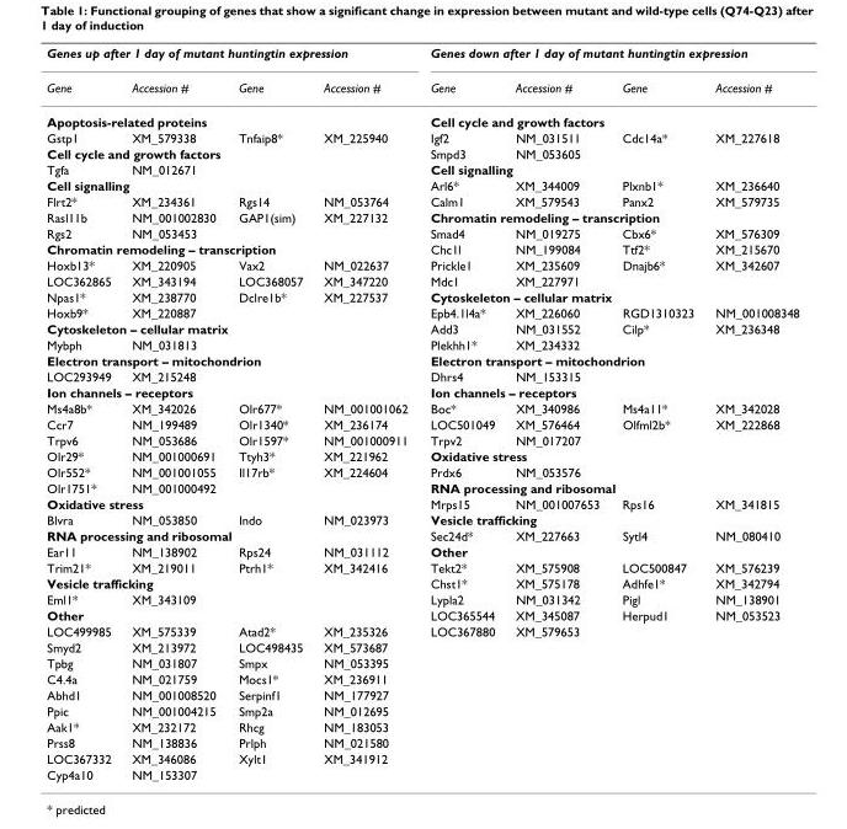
<table><thead><tr><td colspan="4">Genes up after 1 day of mutant huntingtin expression</td><td colspan="4">Genes down after 1 day of mutant huntingtin expression</td></tr><tr><td>Gene</td><td>Accession #</td><td>Gene</td><td>Accession #</td><td>Gene</td><td>Accession #</td><td>Gene</td><td>Accession #</td></tr></thead><tbody><tr><td colspan="4">Apoptosis-related proteins</td><td colspan="4">Cell cycle and growth factors</td></tr><tr><td>Gstp1</td><td>XM_579338</td><td>Tnfaip8*</td><td>XM_225940</td><td>Igf2</td><td>NM_031511</td><td>Cdc14a*</td><td>XM_227618</td></tr><tr><td colspan="4">Cell cycle and growth factors</td><td>Smpd3</td><td>NM_053605</td><td></td><td></td></tr><tr><td>Tgfa</td><td>NM_012671</td><td></td><td></td><td colspan="4">Cell signalling</td></tr><tr><td colspan="4">Cell signalling</td><td>Arl6*</td><td>XM_344009</td><td>Plxnb1*</td><td>XM_236640</td></tr><tr><td>Flrt2*</td><td>XM_234361</td><td>Rgs14</td><td>NM_053764</td><td>Calm1</td><td>XM_579543</td><td>Panx2</td><td>XM_579735</td></tr><tr><td>Rasl11b</td><td>NM_001002830</td><td>GAP1(sim)</td><td>XM_227132</td><td colspan="4">Chromatin remodeling – transcription</td></tr><tr><td>Rgs2</td><td>NM_053453</td><td></td><td></td><td>Smad4</td><td>NM_019275</td><td>Cbx6*</td><td>XM_576309</td></tr><tr><td colspan="4">Chromatin remodeling – transcription</td><td>Chc1l</td><td>NM_199084</td><td>Ttf2*</td><td>XM_215670</td></tr><tr><td>Hoxb13*</td><td>XM_220905</td><td>Vax2</td><td>NM_022637</td><td>Prickle1</td><td>XM_235609</td><td>Dnajb6*</td><td>XM_342607</td></tr><tr><td>LOC362865</td><td>XM_343194</td><td>LOC368057</td><td>XM_347220</td><td>Mdc1</td><td>XM_227971</td><td></td><td></td></tr><tr><td>Npas1*</td><td>XM_238770</td><td>Dclre1b*</td><td>XM_227537</td><td colspan="4">Cytoskeleton – cellular matrix</td></tr><tr><td>Hoxb9*</td><td>XM_220887</td><td></td><td></td><td>Epb4.1l4a*</td><td>XM_226060</td><td>RGD1310323</td><td>NM_001008348</td></tr><tr><td colspan="4">Cytoskeleton – cellular matrix</td><td>Add3</td><td>NM_031552</td><td>Cilp*</td><td>XM_236348</td></tr><tr><td>Mybph</td><td>NM_031813</td><td></td><td></td><td>Plekhh1*</td><td>XM_234332</td><td></td><td></td></tr><tr><td colspan="4">Electron transport – mitochondrion</td><td colspan="4">Electron transport – mitochondrion</td></tr><tr><td>LOC293949</td><td>XM_215248</td><td></td><td></td><td>Dhrs4</td><td>NM_153315</td><td></td><td></td></tr><tr><td colspan="4">Ion channels – receptors</td><td colspan="4">Ion channels – receptors</td></tr><tr><td>Ms4a8b*</td><td>XM_342026</td><td>Olr677*</td><td>NM_001001062</td><td>Boc*</td><td>XM_340986</td><td>Ms4a11*</td><td>XM_342028</td></tr><tr><td>Ccr7</td><td>NM_199489</td><td>Olr1340*</td><td>XM_236174</td><td>LOC501049</td><td>XM_576464</td><td>Olfml2b*</td><td>XM_222868</td></tr><tr><td>Trpv6</td><td>NM_053686</td><td>Olr1597*</td><td>NM_001000911</td><td>Trpv2</td><td>NM_017207</td><td></td><td></td></tr><tr><td>Olr29*</td><td>NM_001000691</td><td>Ttyh3*</td><td>XM_221962</td><td colspan="4">Oxidative stress</td></tr><tr><td>Olr552*</td><td>NM_001001055</td><td>Il17rb*</td><td>XM_224604</td><td>Prdx6</td><td>NM_053576</td><td></td><td></td></tr><tr><td>Olr1751*</td><td>NM_001000492</td><td></td><td></td><td colspan="4">RNA processing and ribosomal</td></tr><tr><td colspan="4">Oxidative stress</td><td>Mrps15</td><td>NM_001007653</td><td>Rps16</td><td>XM_341815</td></tr><tr><td>Blvra</td><td>NM_053850</td><td>Indo</td><td>NM_023973</td><td colspan="4">Vesicle trafficking</td></tr><tr><td colspan="4">RNA processing and ribosomal</td><td>Sec24d*</td><td>XM_227663</td><td>Sytl4</td><td>NM_080410</td></tr><tr><td>Ear11</td><td>NM_138902</td><td>Rps24</td><td>NM_031112</td><td colspan="4">Other</td></tr><tr><td>Trim21*</td><td>XM_219011</td><td>Ptrh1*</td><td>XM_342416</td><td>Tekt2*</td><td>XM_575908</td><td>LOC500847</td><td>XM_576239</td></tr><tr><td colspan="4">Vesicle trafficking</td><td>Chst1*</td><td>XM_575178</td><td>Adhfe1*</td><td>XM_342794</td></tr><tr><td>Eml1*</td><td>XM_343109</td><td></td><td></td><td>Lypla2</td><td>NM_031342</td><td>Pigl</td><td>NM_138901</td></tr><tr><td colspan="4">Other</td><td>LOC365544</td><td>XM_345087</td><td>Herpud1</td><td>NM_053523</td></tr><tr><td>LOC499985</td><td>XM_575339</td><td>Atad2*</td><td>XM_235326</td><td>LOC367880</td><td>XM_579653</td><td></td><td></td></tr><tr><td>Smyd2</td><td>XM_213972</td><td>LOC498435</td><td>XM_573687</td><td></td><td></td><td></td><td></td></tr><tr><td>Tpbg</td><td>NM_031807</td><td>Smpx</td><td>NM_053395</td><td></td><td></td><td></td><td></td></tr><tr><td>C4.4a</td><td>NM_021759</td><td>Mocs1*</td><td>XM_236911</td><td></td><td></td><td></td><td></td></tr><tr><td>Abhd1</td><td>NM_001008520</td><td>Serpinf1</td><td>NM_177927</td><td></td><td></td><td></td><td></td></tr><tr><td>Ppic</td><td>NM_001004215</td><td>Smp2a</td><td>NM_012695</td><td></td><td></td><td></td><td></td></tr><tr><td>Aak1*</td><td>XM_232172</td><td>Rhcg</td><td>NM_183053</td><td></td><td></td><td></td><td></td></tr><tr><td>Prss8</td><td>NM_138836</td><td>Prlph</td><td>NM_021580</td><td></td><td></td><td></td><td></td></tr><tr><td>LOC367332</td><td>XM_346086</td><td>Xylt1</td><td>XM_341912</td><td></td><td></td><td></td><td></td></tr><tr><td>Cyp4a10</td><td>NM_153307</td><td></td><td></td><td></td><td></td><td></td><td></td></tr></tbody></table>